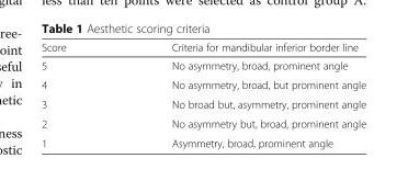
<table><thead><tr><td>Score</td><td>Criteria for mandibular inferior border line</td></tr></thead><tbody><tr><td>5</td><td>No asymmetry, broad, prominent angle</td></tr><tr><td>4</td><td>No asymmetry, broad, but prominent angle</td></tr><tr><td>3</td><td>No broad but, asymmetry, prominent angle</td></tr><tr><td>2</td><td>No asymmetry but, broad, prominent angle</td></tr><tr><td>1</td><td>Asymmetry, broad, prominent angle</td></tr></tbody></table>